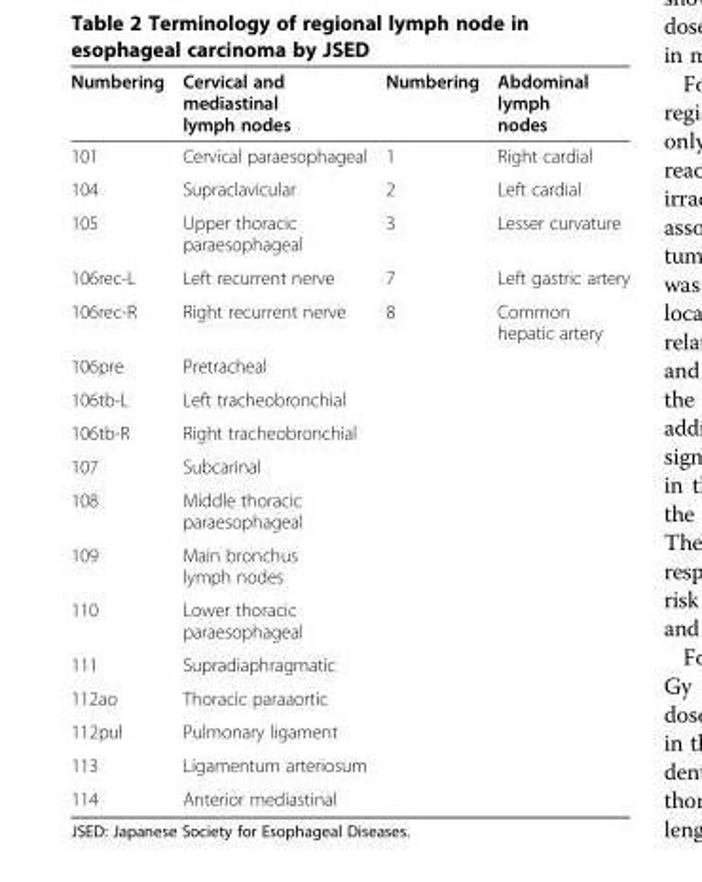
<table><thead><tr><td>Numbering</td><td>Cervical and mediastinal lymph nodes</td><td>Numbering</td><td>Abdominal lymph nodes</td></tr></thead><tbody><tr><td>101</td><td>Cervical paraesophageal</td><td>1</td><td>Right cardial</td></tr><tr><td>104</td><td>Supraclavicular</td><td>2</td><td>Left cardial</td></tr><tr><td>105</td><td>Upper thoracic paraesophageal</td><td>3</td><td>Lesser curvature</td></tr><tr><td>106rec-L</td><td>Left recurrent nerve</td><td>7</td><td>Left gastric artery</td></tr><tr><td>106rec-R</td><td>Right recurrent nerve</td><td>8</td><td>Common hepatic artery</td></tr><tr><td>106pre</td><td>Pretracheal</td><td></td><td></td></tr><tr><td>106tb-L</td><td>Left tracheobronchial</td><td></td><td></td></tr><tr><td>106tb-R</td><td>Right tracheobronchial</td><td></td><td></td></tr><tr><td>107</td><td>Subcarinal</td><td></td><td></td></tr><tr><td>108</td><td>Middle thoracic paraesophageal</td><td></td><td></td></tr><tr><td>109</td><td>Main bronchus lymph nodes</td><td></td><td></td></tr><tr><td>110</td><td>Lower thoracic paraesophageal</td><td></td><td></td></tr><tr><td>111</td><td>Supradiaphragmatic</td><td></td><td></td></tr><tr><td>112ao</td><td>Thoracic paraaortic</td><td></td><td></td></tr><tr><td>112pul</td><td>Pulmonary ligament</td><td></td><td></td></tr><tr><td>113</td><td>Ligamentum arteriosum</td><td></td><td></td></tr><tr><td>114</td><td>Anterior mediastinal</td><td></td><td></td></tr></tbody></table>